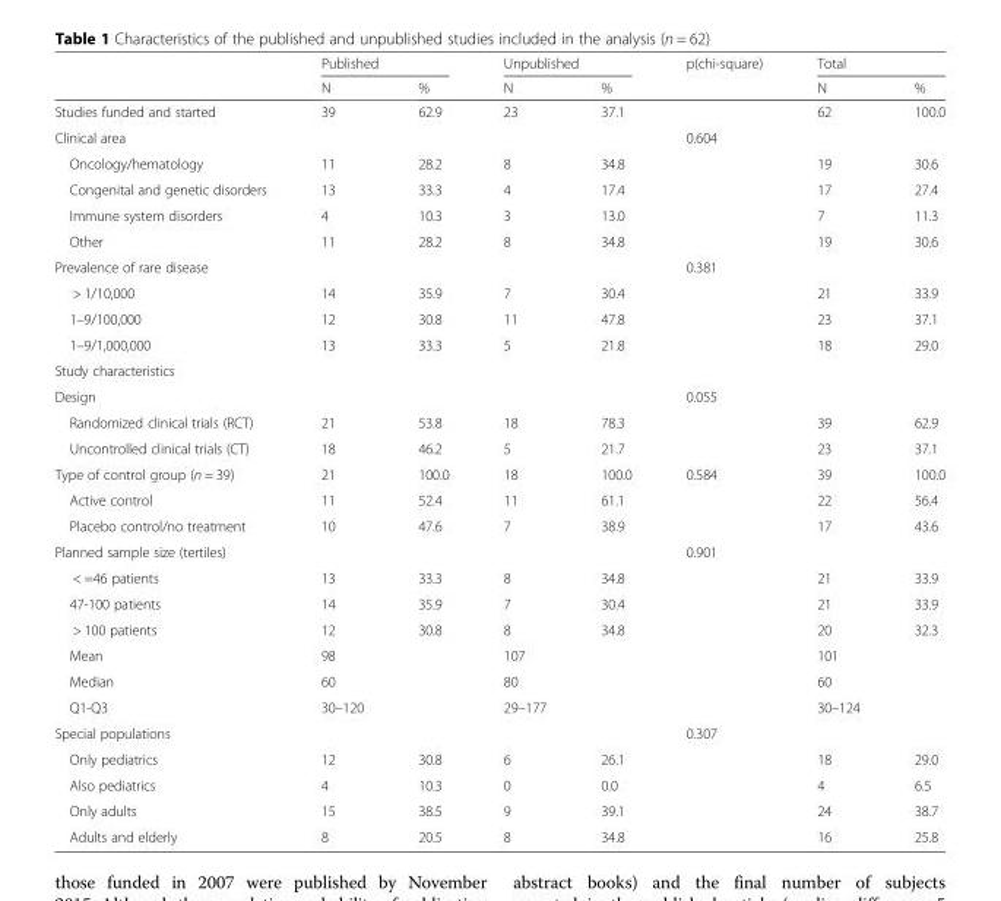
<table><thead><tr><td rowspan="2"></td><td colspan="2">Published</td><td colspan="2">Unpublished</td><td rowspan="2">p(chi-square)</td><td colspan="2">Total</td></tr><tr><td>N</td><td>%</td><td>N</td><td>%</td><td>N</td><td>%</td></tr></thead><tbody><tr><td>Studies funded and started</td><td>39</td><td>62.9</td><td>23</td><td>37.1</td><td></td><td>62</td><td>100.0</td></tr><tr><td>Clinical area</td><td></td><td></td><td></td><td></td><td>0.604</td><td></td><td></td></tr><tr><td>Oncology/hematology</td><td>11</td><td>28.2</td><td>8</td><td>34.8</td><td></td><td>19</td><td>30.6</td></tr><tr><td>Congenital and genetic disorders</td><td>13</td><td>33.3</td><td>4</td><td>17.4</td><td></td><td>17</td><td>27.4</td></tr><tr><td>Immune system disorders</td><td>4</td><td>10.3</td><td>3</td><td>13.0</td><td></td><td>7</td><td>11.3</td></tr><tr><td>Other</td><td>11</td><td>28.2</td><td>8</td><td>34.8</td><td></td><td>19</td><td>30.6</td></tr><tr><td>Prevalence of rare disease</td><td></td><td></td><td></td><td></td><td>0.381</td><td></td><td></td></tr><tr><td>&gt; 1/10,000</td><td>14</td><td>35.9</td><td>7</td><td>30.4</td><td></td><td>21</td><td>33.9</td></tr><tr><td>1–9/100,000</td><td>12</td><td>30.8</td><td>11</td><td>47.8</td><td></td><td>23</td><td>37.1</td></tr><tr><td>1–9/1,000,000</td><td>13</td><td>33.3</td><td>5</td><td>21.8</td><td></td><td>18</td><td>29.0</td></tr><tr><td colspan="8">Study characteristics</td></tr><tr><td>Design</td><td></td><td></td><td></td><td></td><td>0.055</td><td></td><td></td></tr><tr><td>Randomized clinical trials (RCT)</td><td>21</td><td>53.8</td><td>18</td><td>78.3</td><td></td><td>39</td><td>62.9</td></tr><tr><td>Uncontrolled clinical trials (CT)</td><td>18</td><td>46.2</td><td>5</td><td>21.7</td><td></td><td>23</td><td>37.1</td></tr><tr><td>Type of control group (n = 39)</td><td>21</td><td>100.0</td><td>18</td><td>100.0</td><td>0.584</td><td>39</td><td>100.0</td></tr><tr><td>Active control</td><td>11</td><td>52.4</td><td>11</td><td>61.1</td><td></td><td>22</td><td>56.4</td></tr><tr><td>Placebo control/no treatment</td><td>10</td><td>47.6</td><td>7</td><td>38.9</td><td></td><td>17</td><td>43.6</td></tr><tr><td>Planned sample size (tertiles)</td><td></td><td></td><td></td><td></td><td>0.901</td><td></td><td></td></tr><tr><td>&lt; =46 patients</td><td>13</td><td>33.3</td><td>8</td><td>34.8</td><td></td><td>21</td><td>33.9</td></tr><tr><td>47-100 patients</td><td>14</td><td>35.9</td><td>7</td><td>30.4</td><td></td><td>21</td><td>33.9</td></tr><tr><td>&gt; 100 patients</td><td>12</td><td>30.8</td><td>8</td><td>34.8</td><td></td><td>20</td><td>32.3</td></tr><tr><td>Mean</td><td>98</td><td></td><td>107</td><td></td><td></td><td>101</td><td></td></tr><tr><td>Median</td><td>60</td><td></td><td>80</td><td></td><td></td><td>60</td><td></td></tr><tr><td>Q1-Q3</td><td>30–120</td><td></td><td>29–177</td><td></td><td></td><td>30–124</td><td></td></tr><tr><td>Special populations</td><td></td><td></td><td></td><td></td><td>0.307</td><td></td><td></td></tr><tr><td>Only pediatrics</td><td>12</td><td>30.8</td><td>6</td><td>26.1</td><td></td><td>18</td><td>29.0</td></tr><tr><td>Also pediatrics</td><td>4</td><td>10.3</td><td>0</td><td>0.0</td><td></td><td>4</td><td>6.5</td></tr><tr><td>Only adults</td><td>15</td><td>38.5</td><td>9</td><td>39.1</td><td></td><td>24</td><td>38.7</td></tr><tr><td>Adults and elderly</td><td>8</td><td>20.5</td><td>8</td><td>34.8</td><td></td><td>16</td><td>25.8</td></tr></tbody></table>